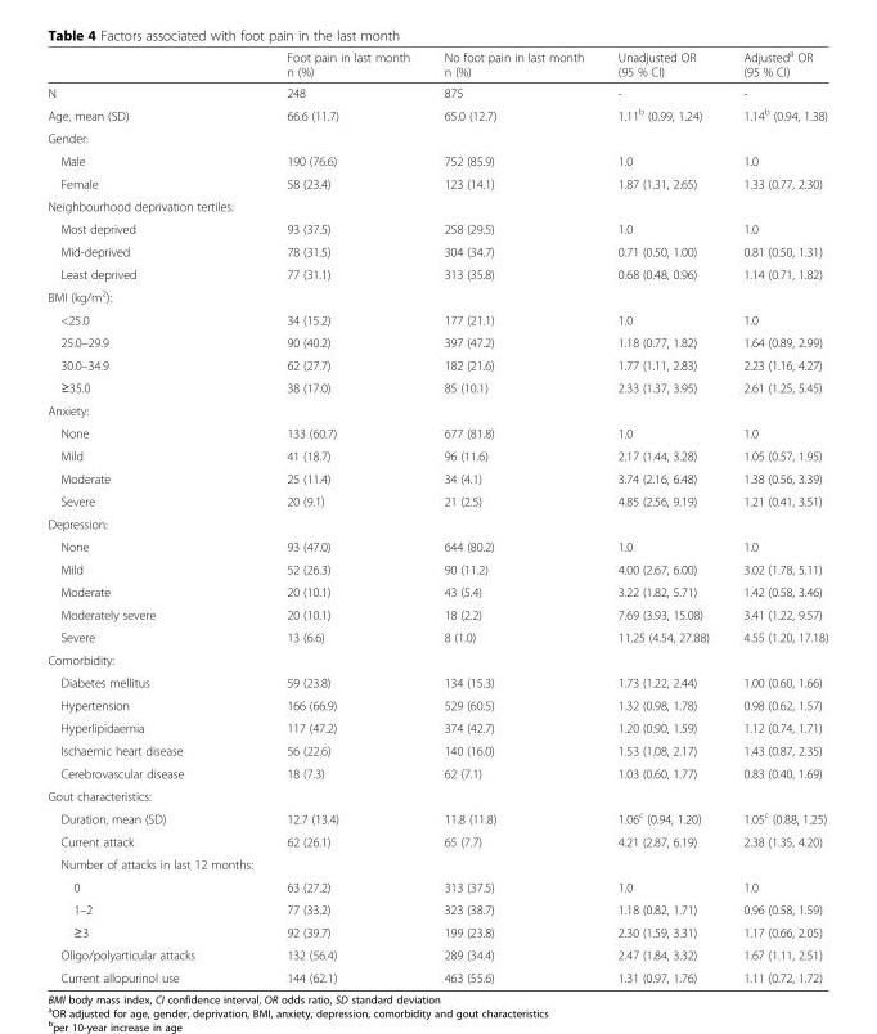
<table><thead><tr><td></td><td>Foot pain in last month n (%)</td><td>No foot pain in last month n (%)</td><td>Unadjusted OR (95 % CI)</td><td>Adjusted<sup>a</sup> OR (95 % CI)</td></tr></thead><tbody><tr><td>N</td><td>248</td><td>875</td><td>-</td><td>-</td></tr><tr><td>Age, mean (SD)</td><td>66.6 (11.7)</td><td>65.0 (12.7)</td><td>1.11<sup>b</sup> (0.99, 1.24)</td><td>1.14<sup>b</sup> (0.94, 1.38)</td></tr><tr><td colspan="5">Gender:</td></tr><tr><td>Male</td><td>190 (76.6)</td><td>752 (85.9)</td><td>1.0</td><td>1.0</td></tr><tr><td>Female</td><td>58 (23.4)</td><td>123 (14.1)</td><td>1.87 (1.31, 2.65)</td><td>1.33 (0.77, 2.30)</td></tr><tr><td colspan="5">Neighbourhood deprivation tertiles:</td></tr><tr><td>Most deprived</td><td>93 (37.5)</td><td>258 (29.5)</td><td>1.0</td><td>1.0</td></tr><tr><td>Mid-deprived</td><td>78 (31.5)</td><td>304 (34.7)</td><td>0.71 (0.50, 1.00)</td><td>0.81 (0.50, 1.31)</td></tr><tr><td>Least deprived</td><td>77 (31.1)</td><td>313 (35.8)</td><td>0.68 (0.48, 0.96)</td><td>1.14 (0.71, 1.82)</td></tr><tr><td colspan="5">BMI (kg/m<sup>2</sup>):</td></tr><tr><td>&lt;25.0</td><td>34 (15.2)</td><td>177 (21.1)</td><td>1.0</td><td>1.0</td></tr><tr><td>25.0–29.9</td><td>90 (40.2)</td><td>397 (47.2)</td><td>1.18 (0.77, 1.82)</td><td>1.64 (0.89, 2.99)</td></tr><tr><td>30.0–34.9</td><td>62 (27.7)</td><td>182 (21.6)</td><td>1.77 (1.11, 2.83)</td><td>2.23 (1.16, 4.27)</td></tr><tr><td>≥35.0</td><td>38 (17.0)</td><td>85 (10.1)</td><td>2.33 (1.37, 3.95)</td><td>2.61 (1.25, 5.45)</td></tr><tr><td colspan="5">Anxiety:</td></tr><tr><td>None</td><td>133 (60.7)</td><td>677 (81.8)</td><td>1.0</td><td>1.0</td></tr><tr><td>Mild</td><td>41 (18.7)</td><td>96 (11.6)</td><td>2.17 (1.44, 3.28)</td><td>1.05 (0.57, 1.95)</td></tr><tr><td>Moderate</td><td>25 (11.4)</td><td>34 (4.1)</td><td>3.74 (2.16, 6.48)</td><td>1.38 (0.56, 3.39)</td></tr><tr><td>Severe</td><td>20 (9.1)</td><td>21 (2.5)</td><td>4.85 (2.56, 9.19)</td><td>1.21 (0.41, 3.51)</td></tr><tr><td colspan="5">Depression:</td></tr><tr><td>None</td><td>93 (47.0)</td><td>644 (80.2)</td><td>1.0</td><td>1.0</td></tr><tr><td>Mild</td><td>52 (26.3)</td><td>90 (11.2)</td><td>4.00 (2.67, 6.00)</td><td>3.02 (1.78, 5.11)</td></tr><tr><td>Moderate</td><td>20 (10.1)</td><td>43 (5.4)</td><td>3.22 (1.82, 5.71)</td><td>1.42 (0.58, 3.46)</td></tr><tr><td>Moderately severe</td><td>20 (10.1)</td><td>18 (2.2)</td><td>7.69 (3.93, 15.08)</td><td>3.41 (1.22, 9.57)</td></tr><tr><td>Severe</td><td>13 (6.6)</td><td>8 (1.0)</td><td>11.25 (4.54, 27.88)</td><td>4.55 (1.20, 17.18)</td></tr><tr><td colspan="5">Comorbidity:</td></tr><tr><td>Diabetes mellitus</td><td>59 (23.8)</td><td>134 (15.3)</td><td>1.73 (1.22, 2.44)</td><td>1.00 (0.60, 1.66)</td></tr><tr><td>Hypertension</td><td>166 (66.9)</td><td>529 (60.5)</td><td>1.32 (0.98, 1.78)</td><td>0.98 (0.62, 1.57)</td></tr><tr><td>Hyperlipidaemia</td><td>117 (47.2)</td><td>374 (42.7)</td><td>1.20 (0.90, 1.59)</td><td>1.12 (0.74, 1.71)</td></tr><tr><td>Ischaemic heart disease</td><td>56 (22.6)</td><td>140 (16.0)</td><td>1.53 (1.08, 2.17)</td><td>1.43 (0.87, 2.35)</td></tr><tr><td>Cerebrovascular disease</td><td>18 (7.3)</td><td>62 (7.1)</td><td>1.03 (0.60, 1.77)</td><td>0.83 (0.40, 1.69)</td></tr><tr><td colspan="5">Gout characteristics:</td></tr><tr><td>Duration, mean (SD)</td><td>12.7 (13.4)</td><td>11.8 (11.8)</td><td>1.06<sup>c</sup> (0.94, 1.20)</td><td>1.05<sup>c</sup> (0.88, 1.25)</td></tr><tr><td>Current attack</td><td>62 (26.1)</td><td>65 (7.7)</td><td>4.21 (2.87, 6.19)</td><td>2.38 (1.35, 4.20)</td></tr><tr><td colspan="5">Number of attacks in last 12 months:</td></tr><tr><td>0</td><td>63 (27.2)</td><td>313 (37.5)</td><td>1.0</td><td>1.0</td></tr><tr><td>1–2</td><td>77 (33.2)</td><td>323 (38.7)</td><td>1.18 (0.82, 1.71)</td><td>0.96 (0.58, 1.59)</td></tr><tr><td>≥3</td><td>92 (39.7)</td><td>199 (23.8)</td><td>2.30 (1.59, 3.31)</td><td>1.17 (0.66, 2.05)</td></tr><tr><td>Oligo/polyarticular attacks</td><td>132 (56.4)</td><td>289 (34.4)</td><td>2.47 (1.84, 3.32)</td><td>1.67 (1.11, 2.51)</td></tr><tr><td>Current allopurinol use</td><td>144 (62.1)</td><td>463 (55.6)</td><td>1.31 (0.97, 1.76)</td><td>1.11 (0.72, 1.72)</td></tr></tbody></table>